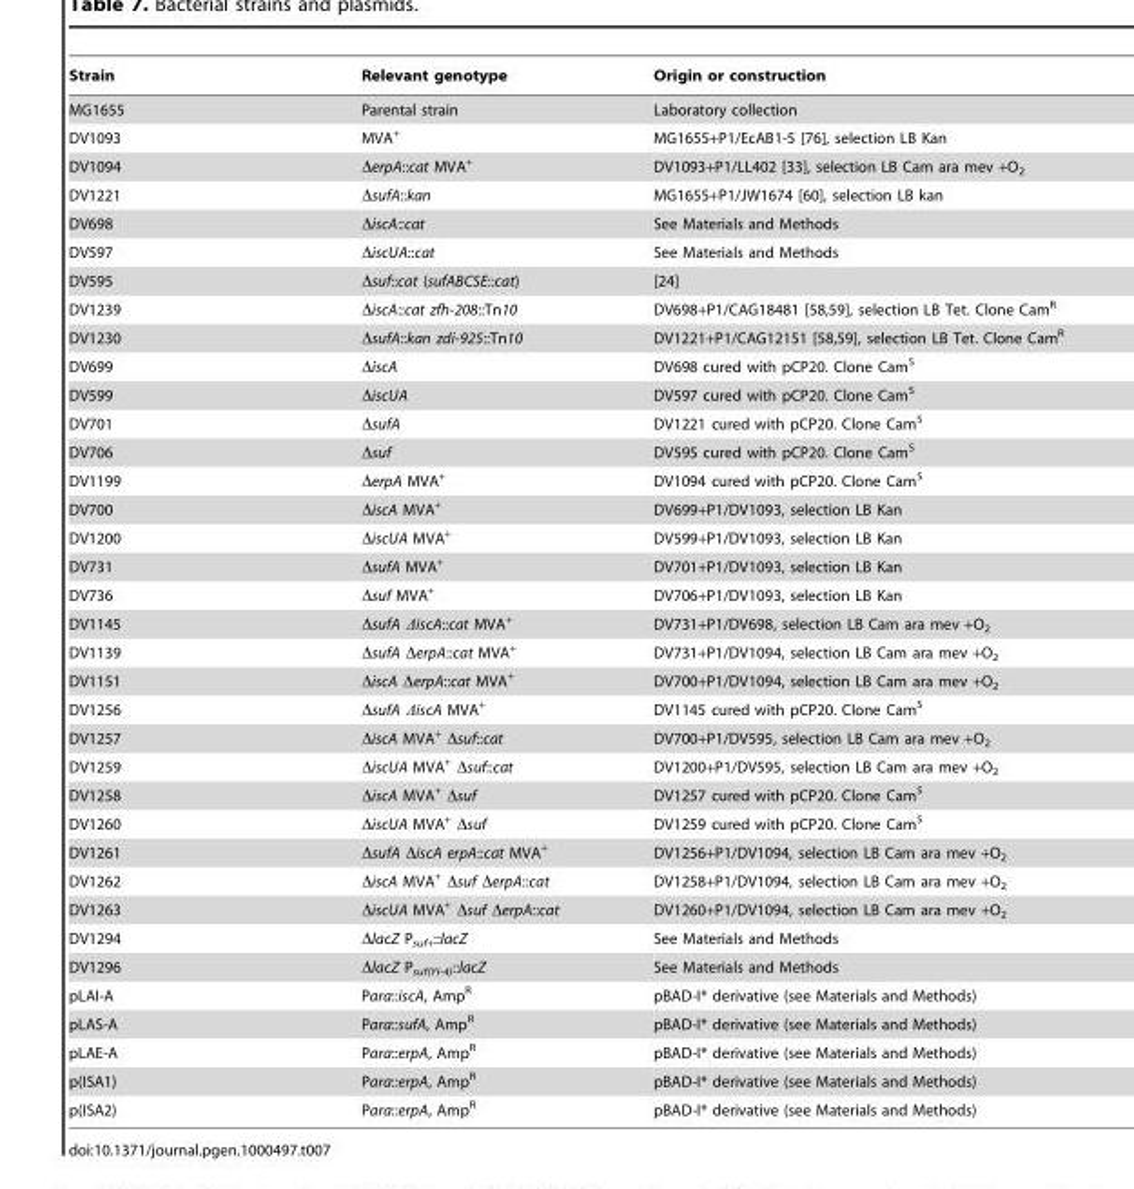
<table><thead><tr><td>Strain</td><td>Relevant genotype</td><td>Origin or construction</td></tr></thead><tbody><tr><td>MG1655</td><td>Parental strain</td><td>Laboratory collection</td></tr><tr><td>DV1093</td><td>MVA<sup>+</sup></td><td>MG1655+P1/EcAB1-5 [76], selection LB Kan</td></tr><tr><td>DV1094</td><td>ΔerpA::cat MVA<sup>+</sup></td><td>DV1093+P1/LL402 [33], selection LB Cam ara mev +O<sub>2</sub></td></tr><tr><td>DV1221</td><td>ΔsufA::kan</td><td>MG1655+P1/JW1674 [60], selection LB kan</td></tr><tr><td>DV698</td><td>ΔiscA::cat</td><td>See Materials and Methods</td></tr><tr><td>DV597</td><td>ΔiscUA::cat</td><td>See Materials and Methods</td></tr><tr><td>DV595</td><td>Δsuf::cat (sufABCSE::cat)</td><td>[24]</td></tr><tr><td>DV1239</td><td>ΔiscA::cat zfh-208::Tn10</td><td>DV698+P1/CAG18481 [58,59], selection LB Tet. Clone CamR</td></tr><tr><td>DV1230</td><td>ΔsufA::kan zdi-925::Tn10</td><td>DV1221+P1/CAG12151 [58,59], selection LB Tet. Clone CamR</td></tr><tr><td>DV699</td><td>ΔiscA</td><td>DV698 cured with pCP20. Clone Cam<sup>S</sup></td></tr><tr><td>DV599</td><td>ΔiscUA</td><td>DV597 cured with pCP20. Clone Cam<sup>S</sup></td></tr><tr><td>DV701</td><td>ΔsufA</td><td>DV1221 cured with pCP20. Clone Cam<sup>S</sup></td></tr><tr><td>DV706</td><td>Δsuf</td><td>DV595 cured with pCP20. Clone Cam<sup>S</sup></td></tr><tr><td>DV1199</td><td>ΔerpA MVA<sup>+</sup></td><td>DV1094 cured with pCP20. Clone Cam<sup>S</sup></td></tr><tr><td>DV700</td><td>ΔiscA MVA<sup>+</sup></td><td>DV699+P1/DV1093, selection LB Kan</td></tr><tr><td>DV1200</td><td>ΔiscUA MVA<sup>+</sup></td><td>DV599+P1/DV1093, selection LB Kan</td></tr><tr><td>DV731</td><td>ΔsufA MVA<sup>+</sup></td><td>DV701+P1/DV1093, selection LB Kan</td></tr><tr><td>DV736</td><td>Δsuf MVA<sup>+</sup></td><td>DV706+P1/DV1093, selection LB Kan</td></tr><tr><td>DV1145</td><td>ΔsufA ΔiscA::cat MVA<sup>+</sup></td><td>DV731+P1/DV698, selection LB Cam ara mev +O<sub>2</sub></td></tr><tr><td>DV1139</td><td>ΔsufA ΔerpA::cat MVA<sup>+</sup></td><td>DV731+P1/DV1094, selection LB Cam ara mev +O<sub>2</sub></td></tr><tr><td>DV1151</td><td>ΔiscA ΔerpA::cat MVA<sup>+</sup></td><td>DV700+P1/DV1094, selection LB Cam ara mev +O<sub>2</sub></td></tr><tr><td>DV1256</td><td>ΔsufA ΔiscA MVA<sup>+</sup></td><td>DV1145 cured with pCP20. Clone Cam<sup>S</sup></td></tr><tr><td>DV1257</td><td>ΔiscA MVA<sup>+</sup> Δsuf::cat</td><td>DV700+P1/DV595, selection LB Cam ara mev +O<sub>2</sub></td></tr><tr><td>DV1259</td><td>ΔiscUA MVA<sup>+</sup> Δsuf::cat</td><td>DV1200+P1/DV595, selection LB Cam ara mev +O<sub>2</sub></td></tr><tr><td>DV1258</td><td>ΔiscA MVA<sup>+</sup> Δsuf</td><td>DV1257 cured with pCP20. Clone Cam<sup>S</sup></td></tr><tr><td>DV1260</td><td>ΔiscUA MVA<sup>+</sup> Δsuf</td><td>DV1259 cured with pCP20. Clone Cam<sup>S</sup></td></tr><tr><td>DV1261</td><td>ΔsufA ΔiscA erpA::cat MVA<sup>+</sup></td><td>DV1256+P1/DV1094, selection LB Cam ara mev +O<sub>2</sub></td></tr><tr><td>DV1262</td><td>ΔiscA MVA<sup>+</sup> Δsuf ΔerpA::cat</td><td>DV1258+P1/DV1094, selection LB Cam ara mev +O<sub>2</sub></td></tr><tr><td>DV1263</td><td>ΔiscUA MVA<sup>+</sup> Δsuf ΔerpA::cat</td><td>DV1260+P1/DV1094, selection LB Cam ara mev +O<sub>2</sub></td></tr><tr><td>DV1294</td><td>ΔlacZ P<sub>suf+</sub>::lacZ</td><td>See Materials and Methods</td></tr><tr><td>DV1296</td><td>ΔlacZ P<sub>suf(YI-4)</sub>::lacZ</td><td>See Materials and Methods</td></tr><tr><td>pLAI-A</td><td>Para::iscA, Amp<sup>R</sup></td><td>pBAD-I* derivative (see Materials and Methods)</td></tr><tr><td>pLAS-A</td><td>Para::sufA, Amp<sup>R</sup></td><td>pBAD-I* derivative (see Materials and Methods)</td></tr><tr><td>pLAE-A</td><td>Para::erpA, Amp<sup>R</sup></td><td>pBAD-I* derivative (see Materials and Methods)</td></tr><tr><td>p(ISA1)</td><td>Para::erpA, Amp<sup>R</sup></td><td>pBAD-I* derivative (see Materials and Methods)</td></tr><tr><td>p(ISA2)</td><td>Para::erpA, Amp<sup>R</sup></td><td>pBAD-I* derivative (see Materials and Methods)</td></tr></tbody></table>